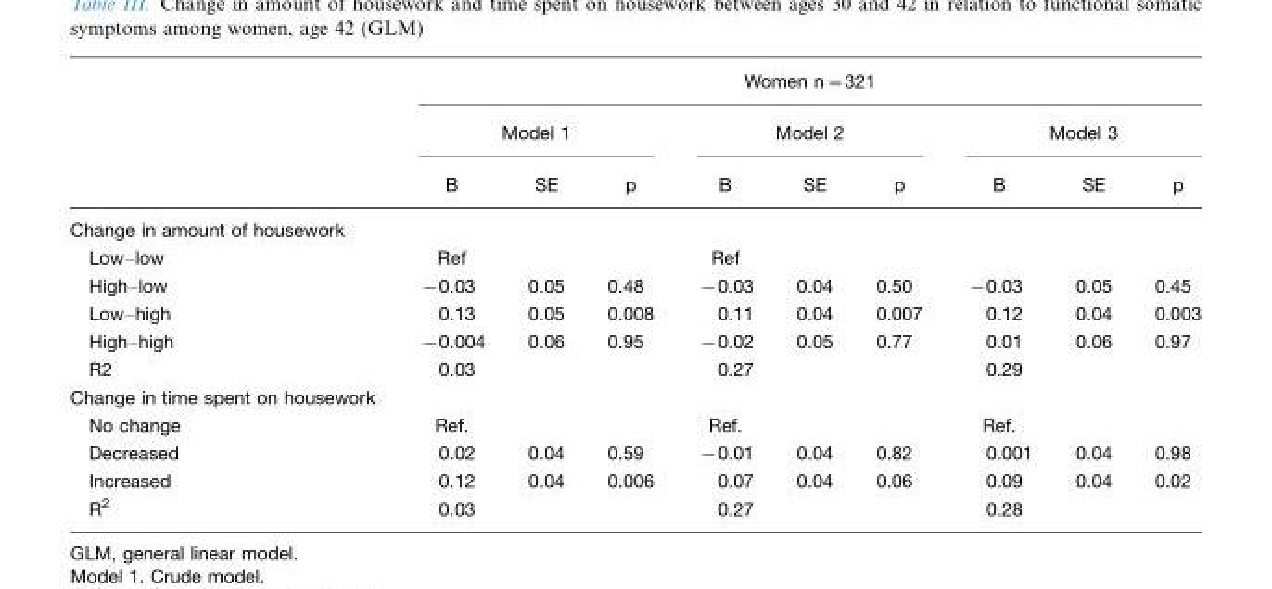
<table><thead><tr><td rowspan="3"></td><td colspan="9">Women n=321</td></tr><tr><td colspan="3">Model 1</td><td colspan="3">Model 2</td><td colspan="3">Model 3</td></tr><tr><td>B</td><td>SE</td><td>p</td><td>B</td><td>SE</td><td>p</td><td>B</td><td>SE</td><td>p</td></tr></thead><tbody><tr><td colspan="10">Change in amount of housework</td></tr><tr><td>Low–low</td><td>Ref</td><td></td><td></td><td>Ref</td><td></td><td></td><td></td><td></td><td></td></tr><tr><td>High–low</td><td>−0.03</td><td>0.05</td><td>0.48</td><td>−0.03</td><td>0.04</td><td>0.50</td><td>−0.03</td><td>0.05</td><td>0.45</td></tr><tr><td>Low–high</td><td>0.13</td><td>0.05</td><td>0.008</td><td>0.11</td><td>0.04</td><td>0.007</td><td>0.12</td><td>0.04</td><td>0.003</td></tr><tr><td>High–high</td><td>−0.004</td><td>0.06</td><td>0.95</td><td>−0.02</td><td>0.05</td><td>0.77</td><td>0.01</td><td>0.06</td><td>0.97</td></tr><tr><td>R2</td><td>0.03</td><td></td><td></td><td>0.27</td><td></td><td></td><td>0.29</td><td></td><td></td></tr><tr><td colspan="10">Change in time spent on housework</td></tr><tr><td>No change</td><td>Ref.</td><td></td><td></td><td>Ref.</td><td></td><td></td><td>Ref.</td><td></td><td></td></tr><tr><td>Decreased</td><td>0.02</td><td>0.04</td><td>0.59</td><td>−0.01</td><td>0.04</td><td>0.82</td><td>0.001</td><td>0.04</td><td>0.98</td></tr><tr><td>Increased</td><td>0.12</td><td>0.04</td><td>0.006</td><td>0.07</td><td>0.04</td><td>0.06</td><td>0.09</td><td>0.04</td><td>0.02</td></tr><tr><td>R<sup>2</sup></td><td>0.03</td><td></td><td></td><td>0.27</td><td></td><td></td><td>0.28</td><td></td><td></td></tr></tbody></table>